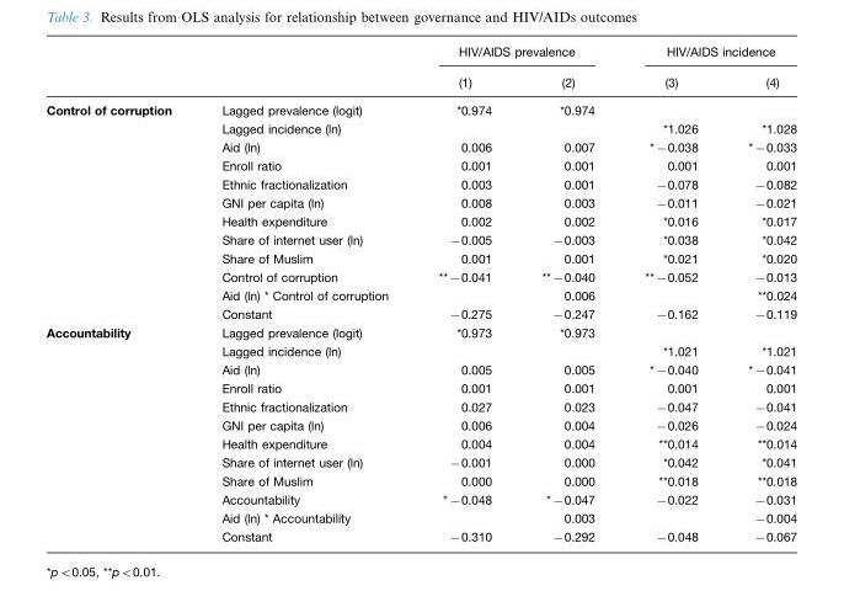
<table><thead><tr><td rowspan="2"></td><td rowspan="2"></td><td colspan="2">HIV/AIDS prevalence</td><td colspan="2">HIV/AIDS incidence</td></tr><tr><td>(1)</td><td>(2)</td><td>(3)</td><td>(4)</td></tr></thead><tbody><tr><td rowspan="12">Control of corruption</td><td>Lagged prevalence (logit)</td><td>*0.974</td><td>*0.974</td><td></td><td></td></tr><tr><td>Lagged incidence (ln)</td><td></td><td></td><td>*1.026</td><td>*1.028</td></tr><tr><td>Aid (ln)</td><td>0.006</td><td>0.007</td><td>*−0.038</td><td>*−0.033</td></tr><tr><td>Enroll ratio</td><td>0.001</td><td>0.001</td><td>0.001</td><td>0.001</td></tr><tr><td>Ethnic fractionalization</td><td>0.003</td><td>0.001</td><td>−0.078</td><td>−0.082</td></tr><tr><td>GNI per capita (ln)</td><td>0.008</td><td>0.003</td><td>−0.011</td><td>−0.021</td></tr><tr><td>Health expenditure</td><td>0.002</td><td>0.002</td><td>*0.016</td><td>*0.017</td></tr><tr><td>Share of internet user (ln)</td><td>−0.005</td><td>−0.003</td><td>*0.038</td><td>*0.042</td></tr><tr><td>Share of Muslim</td><td>0.001</td><td>0.001</td><td>*0.021</td><td>*0.020</td></tr><tr><td>Control of corruption</td><td>**−0.041</td><td>**−0.040</td><td>**−0.052</td><td>−0.013</td></tr><tr><td>Aid (ln) * Control of corruption</td><td></td><td>0.006</td><td></td><td>**0.024</td></tr><tr><td>Constant</td><td>−0.275</td><td>−0.247</td><td>−0.162</td><td>−0.119</td></tr><tr><td rowspan="12">Accountability</td><td>Lagged prevalence (logit)</td><td>*0.973</td><td>*0.973</td><td></td><td></td></tr><tr><td>Lagged incidence (ln)</td><td></td><td></td><td>*1.021</td><td>*1.021</td></tr><tr><td>Aid (ln)</td><td>0.005</td><td>0.005</td><td>*−0.040</td><td>*−0.041</td></tr><tr><td>Enroll ratio</td><td>0.001</td><td>0.001</td><td>0.001</td><td>0.001</td></tr><tr><td>Ethnic fractionalization</td><td>0.027</td><td>0.023</td><td>−0.047</td><td>−0.041</td></tr><tr><td>GNI per capita (ln)</td><td>0.006</td><td>0.004</td><td>−0.026</td><td>−0.024</td></tr><tr><td>Health expenditure</td><td>0.004</td><td>0.004</td><td>**0.014</td><td>**0.014</td></tr><tr><td>Share of internet user (ln)</td><td>−0.001</td><td>0.000</td><td>*0.042</td><td>*0.041</td></tr><tr><td>Share of Muslim</td><td>0.000</td><td>0.000</td><td>**0.018</td><td>**0.018</td></tr><tr><td>Accountability</td><td>*−0.048</td><td>*−0.047</td><td>−0.022</td><td>−0.031</td></tr><tr><td>Aid (ln) * Accountability</td><td></td><td>0.003</td><td></td><td>−0.004</td></tr><tr><td>Constant</td><td>−0.310</td><td>−0.292</td><td>−0.048</td><td>−0.067</td></tr></tbody></table>